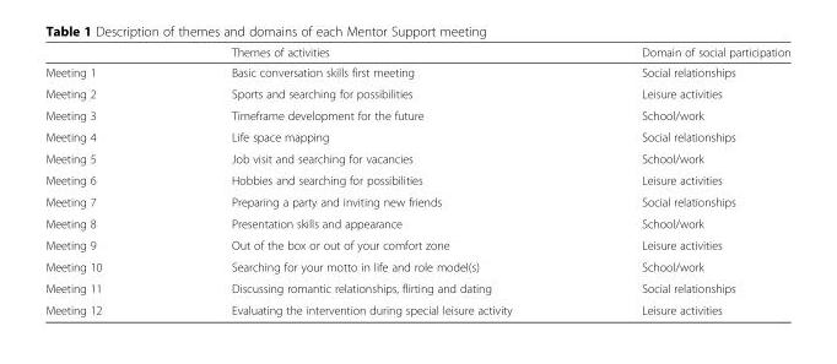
<table><thead><tr><td></td><td>Themes of activities</td><td>Domain of social participation</td></tr></thead><tbody><tr><td>Meeting 1</td><td>Basic conversation skills first meeting</td><td>Social relationships</td></tr><tr><td>Meeting 2</td><td>Sports and searching for possibilities</td><td>Leisure activities</td></tr><tr><td>Meeting 3</td><td>Timeframe development for the future</td><td>School/work</td></tr><tr><td>Meeting 4</td><td>Life space mapping</td><td>Social relationships</td></tr><tr><td>Meeting 5</td><td>Job visit and searching for vacancies</td><td>School/work</td></tr><tr><td>Meeting 6</td><td>Hobbies and searching for possibilities</td><td>Leisure activities</td></tr><tr><td>Meeting 7</td><td>Preparing a party and inviting new friends</td><td>Social relationships</td></tr><tr><td>Meeting 8</td><td>Presentation skills and appearance</td><td>School/work</td></tr><tr><td>Meeting 9</td><td>Out of the box or out of your comfort zone</td><td>Leisure activities</td></tr><tr><td>Meeting 10</td><td>Searching for your motto in life and role model(s)</td><td>School/work</td></tr><tr><td>Meeting 11</td><td>Discussing romantic relationships, flirting and dating</td><td>Social relationships</td></tr><tr><td>Meeting 12</td><td>Evaluating the intervention during special leisure activity</td><td>Leisure activities</td></tr></tbody></table>